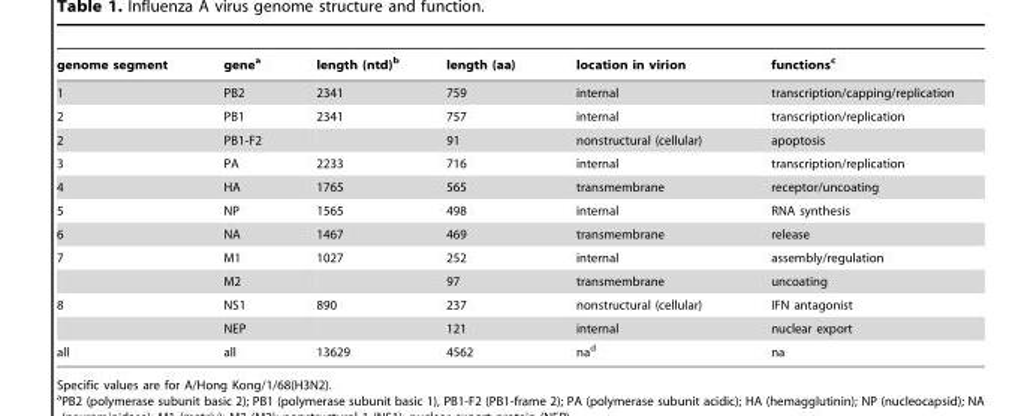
<table><thead><tr><td>genome segment</td><td>gene<sup>a</sup></td><td>length (ntd)<sup>b</sup></td><td>length (aa)</td><td>location in virion</td><td>functions<sup>c</sup></td></tr></thead><tbody><tr><td>1</td><td>PB2</td><td>2341</td><td>759</td><td>internal</td><td>transcription/capping/replication</td></tr><tr><td>2</td><td>PB1</td><td>2341</td><td>757</td><td>internal</td><td>transcription/replication</td></tr><tr><td>2</td><td>PB1-F2</td><td></td><td>91</td><td>nonstructural (cellular)</td><td>apoptosis</td></tr><tr><td>3</td><td>PA</td><td>2233</td><td>716</td><td>internal</td><td>transcription/replication</td></tr><tr><td>4</td><td>HA</td><td>1765</td><td>565</td><td>transmembrane</td><td>receptor/uncoating</td></tr><tr><td>5</td><td>NP</td><td>1565</td><td>498</td><td>internal</td><td>RNA synthesis</td></tr><tr><td>6</td><td>NA</td><td>1467</td><td>469</td><td>transmembrane</td><td>release</td></tr><tr><td rowspan="2">7</td><td>M1</td><td>1027</td><td>252</td><td>internal</td><td>assembly/regulation</td></tr><tr><td>M2</td><td></td><td>97</td><td>transmembrane</td><td>uncoating</td></tr><tr><td rowspan="2">8</td><td>NS1</td><td>890</td><td>237</td><td>nonstructural (cellular)</td><td>IFN antagonist</td></tr><tr><td>NEP</td><td></td><td>121</td><td>internal</td><td>nuclear export</td></tr><tr><td>all</td><td>all</td><td>13629</td><td>4562</td><td>na<sup>d</sup></td><td>na</td></tr></tbody></table>